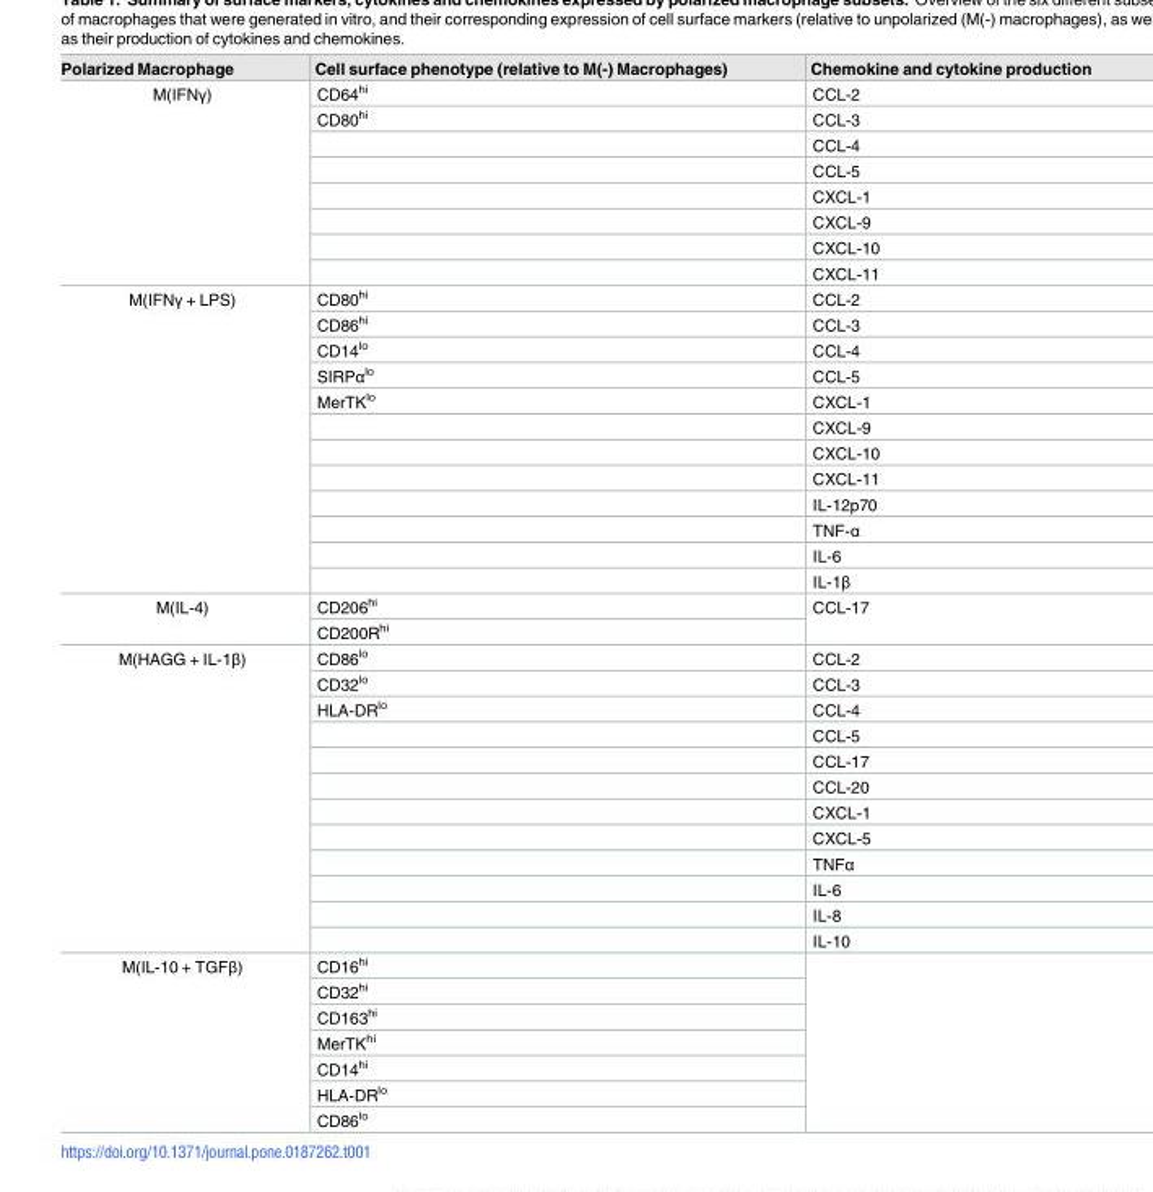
<table><thead><tr><td>Polarized Macrophage</td><td>Cell surface phenotype (relative to M(-) Macrophages)</td><td>Chemokine and cytokine production</td></tr></thead><tbody><tr><td rowspan="8">M(IFNγ)</td><td>CD64<sup>hi</sup></td><td>CCL-2</td></tr><tr><td>CD80<sup>hi</sup></td><td>CCL-3</td></tr><tr><td></td><td>CCL-4</td></tr><tr><td></td><td>CCL-5</td></tr><tr><td></td><td>CXCL-1</td></tr><tr><td></td><td>CXCL-9</td></tr><tr><td></td><td>CXCL-10</td></tr><tr><td></td><td>CXCL-11</td></tr><tr><td rowspan="12">M(IFNγ + LPS)</td><td>CD80<sup>hi</sup></td><td>CCL-2</td></tr><tr><td>CD86<sup>hi</sup></td><td>CCL-3</td></tr><tr><td>CD14<sup>lo</sup></td><td>CCL-4</td></tr><tr><td>SIRPα<sup>lo</sup></td><td>CCL-5</td></tr><tr><td>MerTK<sup>lo</sup></td><td>CXCL-1</td></tr><tr><td></td><td>CXCL-9</td></tr><tr><td></td><td>CXCL-10</td></tr><tr><td></td><td>CXCL-11</td></tr><tr><td></td><td>IL-12p70</td></tr><tr><td></td><td>TNF-α</td></tr><tr><td></td><td>IL-6</td></tr><tr><td></td><td>IL-1β</td></tr><tr><td rowspan="2">M(IL-4)</td><td>CD206<sup>hi</sup></td><td rowspan="2">CCL-17</td></tr><tr><td>CD200R<sup>hi</sup></td></tr><tr><td rowspan="12">M(HAGG + IL-1β)</td><td>CD86<sup>lo</sup></td><td>CCL-2</td></tr><tr><td>CD32<sup>lo</sup></td><td>CCL-3</td></tr><tr><td>HLA-DR<sup>lo</sup></td><td>CCL-4</td></tr><tr><td></td><td>CCL-5</td></tr><tr><td></td><td>CCL-17</td></tr><tr><td></td><td>CCL-20</td></tr><tr><td></td><td>CXCL-1</td></tr><tr><td></td><td>CXCL-5</td></tr><tr><td></td><td>TNFα</td></tr><tr><td></td><td>IL-6</td></tr><tr><td></td><td>IL-8</td></tr><tr><td></td><td>IL-10</td></tr><tr><td rowspan="7">M(IL-10 + TGFβ)</td><td>CD16<sup>hi</sup></td><td rowspan="7"></td></tr><tr><td>CD32<sup>hi</sup></td></tr><tr><td>CD163<sup>hi</sup></td></tr><tr><td>MerTK<sup>hi</sup></td></tr><tr><td>CD14<sup>hi</sup></td></tr><tr><td>HLA-DR<sup>lo</sup></td></tr><tr><td>CD86<sup>lo</sup></td></tr></tbody></table>